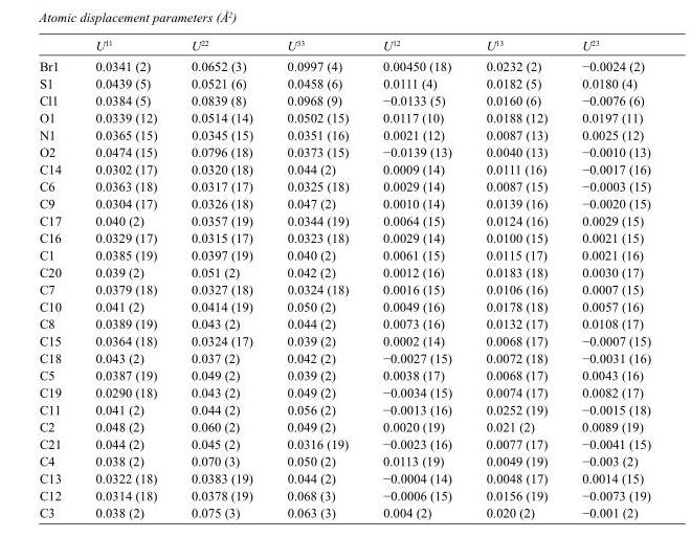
<table><thead><tr><td></td><td>U<sup>11</sup></td><td>U<sup>22</sup></td><td>U<sup>33</sup></td><td>U<sup>12</sup></td><td>U<sup>13</sup></td><td>U<sup>23</sup></td></tr></thead><tbody><tr><td>Br1</td><td>0.0341 (2)</td><td>0.0652 (3)</td><td>0.0997 (4)</td><td>0.00450 (18)</td><td>0.0232 (2)</td><td>−0.0024 (2)</td></tr><tr><td>S1</td><td>0.0439 (5)</td><td>0.0521 (6)</td><td>0.0458 (6)</td><td>0.0111 (4)</td><td>0.0182 (5)</td><td>0.0180 (4)</td></tr><tr><td>Cl1</td><td>0.0384 (5)</td><td>0.0839 (8)</td><td>0.0968 (9)</td><td>−0.0133 (5)</td><td>0.0160 (6)</td><td>−0.0076 (6)</td></tr><tr><td>O1</td><td>0.0339 (12)</td><td>0.0514 (14)</td><td>0.0502 (15)</td><td>0.0117 (10)</td><td>0.0188 (12)</td><td>0.0197 (11)</td></tr><tr><td>N1</td><td>0.0365 (15)</td><td>0.0345 (15)</td><td>0.0351 (16)</td><td>0.0021 (12)</td><td>0.0087 (13)</td><td>0.0025 (12)</td></tr><tr><td>O2</td><td>0.0474 (15)</td><td>0.0796 (18)</td><td>0.0373 (15)</td><td>−0.0139 (13)</td><td>0.0040 (13)</td><td>−0.0010 (13)</td></tr><tr><td>C14</td><td>0.0302 (17)</td><td>0.0320 (18)</td><td>0.044 (2)</td><td>0.0009 (14)</td><td>0.0111 (16)</td><td>−0.0017 (16)</td></tr><tr><td>C6</td><td>0.0363 (18)</td><td>0.0317 (17)</td><td>0.0325 (18)</td><td>0.0029 (14)</td><td>0.0087 (15)</td><td>−0.0003 (15)</td></tr><tr><td>C9</td><td>0.0304 (17)</td><td>0.0326 (18)</td><td>0.047 (2)</td><td>0.0010 (14)</td><td>0.0139 (16)</td><td>−0.0020 (15)</td></tr><tr><td>C17</td><td>0.040 (2)</td><td>0.0357 (19)</td><td>0.0344 (19)</td><td>0.0064 (15)</td><td>0.0124 (16)</td><td>0.0029 (15)</td></tr><tr><td>C16</td><td>0.0329 (17)</td><td>0.0315 (17)</td><td>0.0323 (18)</td><td>0.0029 (14)</td><td>0.0100 (15)</td><td>0.0021 (15)</td></tr><tr><td>C1</td><td>0.0385 (19)</td><td>0.0397 (19)</td><td>0.040 (2)</td><td>0.0061 (15)</td><td>0.0115 (17)</td><td>0.0021 (16)</td></tr><tr><td>C20</td><td>0.039 (2)</td><td>0.051 (2)</td><td>0.042 (2)</td><td>0.0012 (16)</td><td>0.0183 (18)</td><td>0.0030 (17)</td></tr><tr><td>C7</td><td>0.0379 (18)</td><td>0.0327 (18)</td><td>0.0324 (18)</td><td>0.0016 (15)</td><td>0.0106 (16)</td><td>0.0007 (15)</td></tr><tr><td>C10</td><td>0.041 (2)</td><td>0.0414 (19)</td><td>0.050 (2)</td><td>0.0049 (16)</td><td>0.0178 (18)</td><td>0.0057 (16)</td></tr><tr><td>C8</td><td>0.0389 (19)</td><td>0.043 (2)</td><td>0.044 (2)</td><td>0.0073 (16)</td><td>0.0132 (17)</td><td>0.0108 (17)</td></tr><tr><td>C15</td><td>0.0364 (18)</td><td>0.0324 (17)</td><td>0.039 (2)</td><td>0.0002 (14)</td><td>0.0068 (17)</td><td>−0.0007 (15)</td></tr><tr><td>C18</td><td>0.043 (2)</td><td>0.037 (2)</td><td>0.042 (2)</td><td>−0.0027 (15)</td><td>0.0072 (18)</td><td>−0.0031 (16)</td></tr><tr><td>C5</td><td>0.0387 (19)</td><td>0.049 (2)</td><td>0.039 (2)</td><td>0.0038 (17)</td><td>0.0068 (17)</td><td>0.0043 (16)</td></tr><tr><td>C19</td><td>0.0290 (18)</td><td>0.043 (2)</td><td>0.049 (2)</td><td>−0.0034 (15)</td><td>0.0074 (17)</td><td>0.0082 (17)</td></tr><tr><td>C11</td><td>0.041 (2)</td><td>0.044 (2)</td><td>0.056 (2)</td><td>−0.0013 (16)</td><td>0.0252 (19)</td><td>−0.0015 (18)</td></tr><tr><td>C2</td><td>0.048 (2)</td><td>0.060 (2)</td><td>0.049 (2)</td><td>0.0020 (19)</td><td>0.021 (2)</td><td>0.0089 (19)</td></tr><tr><td>C21</td><td>0.044 (2)</td><td>0.045 (2)</td><td>0.0316 (19)</td><td>−0.0023 (16)</td><td>0.0077 (17)</td><td>−0.0041 (15)</td></tr><tr><td>C4</td><td>0.038 (2)</td><td>0.070 (3)</td><td>0.050 (2)</td><td>0.0113 (19)</td><td>0.0049 (19)</td><td>−0.003 (2)</td></tr><tr><td>C13</td><td>0.0322 (18)</td><td>0.0383 (19)</td><td>0.044 (2)</td><td>−0.0004 (14)</td><td>0.0048 (17)</td><td>0.0014 (15)</td></tr><tr><td>C12</td><td>0.0314 (18)</td><td>0.0378 (19)</td><td>0.068 (3)</td><td>−0.0006 (15)</td><td>0.0156 (19)</td><td>−0.0073 (19)</td></tr><tr><td>C3</td><td>0.038 (2)</td><td>0.075 (3)</td><td>0.063 (3)</td><td>0.004 (2)</td><td>0.020 (2)</td><td>−0.001 (2)</td></tr></tbody></table>